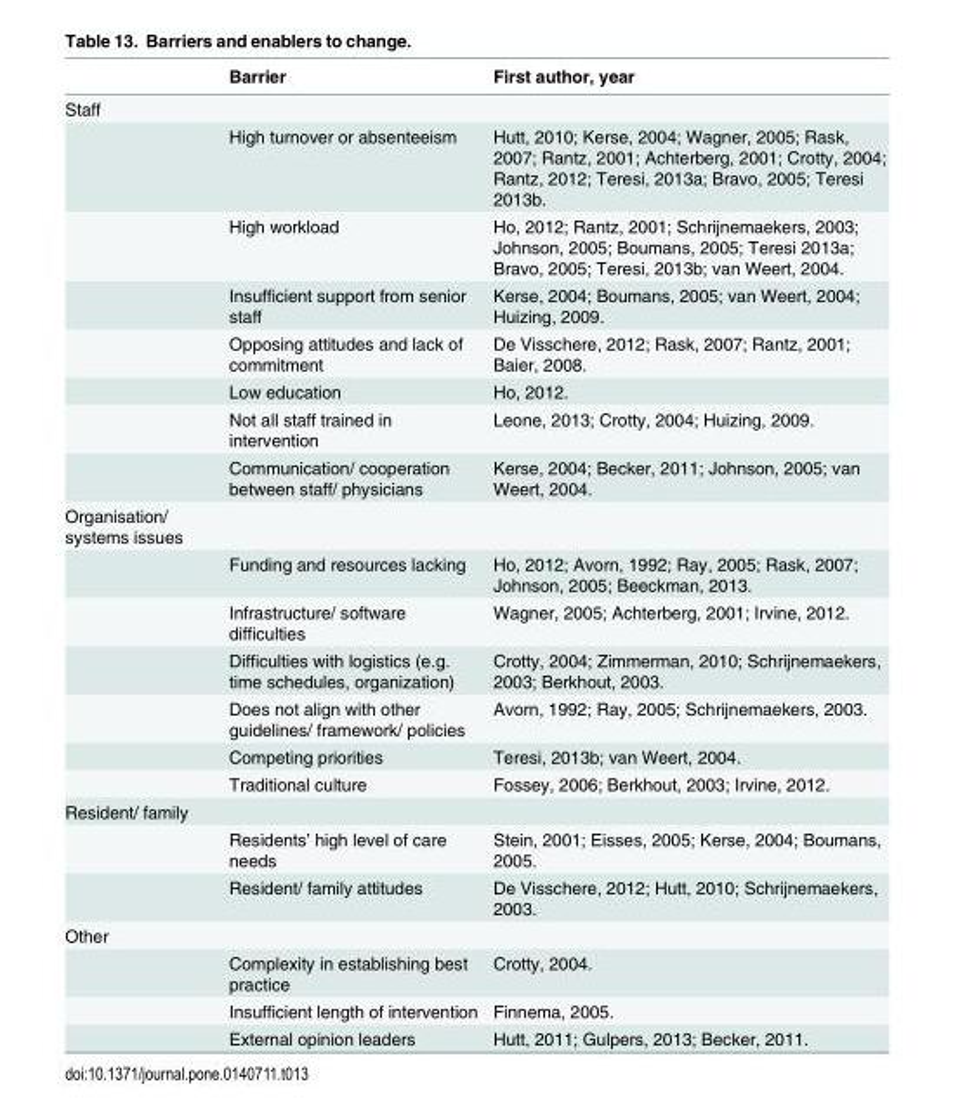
<table><thead><tr><td></td><td>Barrier</td><td>First author, year</td></tr></thead><tbody><tr><td colspan="3">Staff</td></tr><tr><td></td><td>High turnover or absenteeism</td><td>Hutt, 2010; Kerse, 2004; Wagner, 2005; Rask, 2007; Rantz, 2001; Achterberg, 2001; Crotty, 2004; Rantz, 2012; Teresi, 2013a; Bravo, 2005; Teresi 2013b.</td></tr><tr><td></td><td>High workload</td><td>Ho, 2012; Rantz, 2001; Schrijnemaekers, 2003; Johnson, 2005; Boumans, 2005; Teresi 2013a; Bravo, 2005; Teresi, 2013b; van Weert, 2004.</td></tr><tr><td></td><td>Insufficient support from senior staff</td><td>Kerse, 2004; Boumans, 2005; van Weert, 2004; Huizing, 2009.</td></tr><tr><td></td><td>Opposing attitudes and lack of commitment</td><td>De Visschere, 2012; Rask, 2007; Rantz, 2001; Baier, 2008.</td></tr><tr><td></td><td>Low education</td><td>Ho, 2012.</td></tr><tr><td></td><td>Not all staff trained in intervention</td><td>Leone, 2013; Crotty, 2004; Huizing, 2009.</td></tr><tr><td></td><td>Communication/ cooperation between staff/ physicians</td><td>Kerse, 2004; Becker, 2011; Johnson, 2005; van Weert, 2004.</td></tr><tr><td colspan="3">Organisation/ systems issues</td></tr><tr><td></td><td>Funding and resources lacking</td><td>Ho, 2012; Avorn, 1992; Ray, 2005; Rask, 2007; Johnson, 2005; Beeckman, 2013.</td></tr><tr><td></td><td>Infrastructure/ software difficulties</td><td>Wagner, 2005; Achterberg, 2001; Irvine, 2012.</td></tr><tr><td></td><td>Difficulties with logistics (e.g. time schedules, organization)</td><td>Crotty, 2004; Zimmerman, 2010; Schrijnemaekers, 2003; Berkhout, 2003.</td></tr><tr><td></td><td>Does not align with other guidelines/ framework/ policies</td><td>Avorn, 1992; Ray, 2005; Schrijnemaekers, 2003.</td></tr><tr><td></td><td>Competing priorities</td><td>Teresi, 2013b; van Weert, 2004.</td></tr><tr><td></td><td>Traditional culture</td><td>Fossey, 2006; Berkhout, 2003; Irvine, 2012.</td></tr><tr><td colspan="3">Resident/ family</td></tr><tr><td></td><td>Residents’ high level of care needs</td><td>Stein, 2001; Eisses, 2005; Kerse, 2004; Boumans, 2005.</td></tr><tr><td></td><td>Resident/ family attitudes</td><td>De Visschere, 2012; Hutt, 2010; Schrijnemaekers, 2003.</td></tr><tr><td colspan="3">Other</td></tr><tr><td></td><td>Complexity in establishing best practice</td><td>Crotty, 2004.</td></tr><tr><td></td><td>Insufficient length of intervention</td><td>Finnema, 2005.</td></tr><tr><td></td><td>External opinion leaders</td><td>Hutt, 2011; Gulpers, 2013; Becker, 2011.</td></tr></tbody></table>